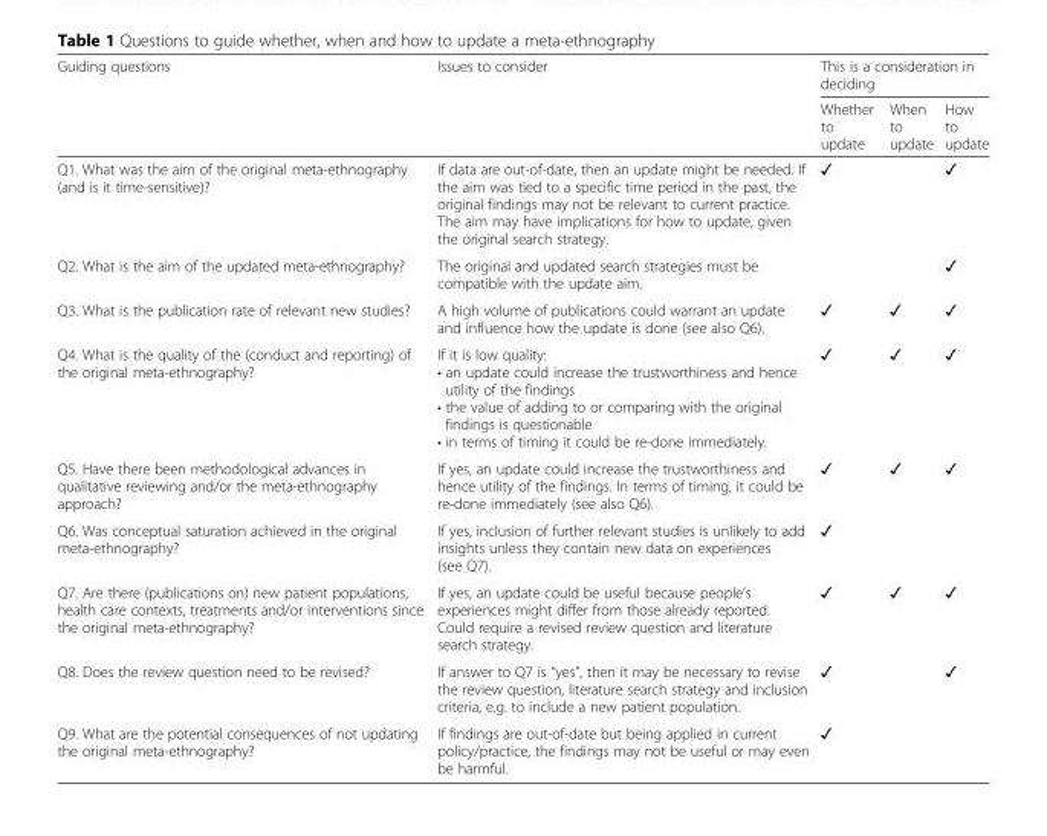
<table><thead><tr><td rowspan="2">Guiding questions</td><td rowspan="2">Issues to consider</td><td colspan="3">This is a consideration in deciding</td></tr><tr><td>Whether to update</td><td>When to update</td><td>How to update</td></tr></thead><tbody><tr><td>Q1. What was the aim of the original meta-ethnography (and is it time-sensitive)?</td><td>If data are out-of-date, then an update might be needed. If the aim was tied to a specific time period in the past, the original findings may not be relevant to current practice. The aim may have implications for how to update, given the original search strategy.</td><td>✓</td><td></td><td>✓</td></tr><tr><td>Q2. What is the aim of the updated meta-ethnography?</td><td>The original and updated search strategies must be compatible with the update aim.</td><td></td><td></td><td>✓</td></tr><tr><td>Q3. What is the publication rate of relevant new studies?</td><td>A high volume of publications could warrant an update and influence how the update is done (see also Q6).</td><td>✓</td><td>✓</td><td>✓</td></tr><tr><td>Q4. What is the quality of the (conduct and reporting) of the original meta-ethnography?</td><td>If it is low quality: • an update could increase the trustworthiness and hence utility of the findings • the value of adding to or comparing with the original findings is questionable • in terms of timing it could be re-done immediately.</td><td>✓</td><td>✓</td><td>✓</td></tr><tr><td>Q5. Have there been methodological advances in qualitative reviewing and/or the meta-ethnography approach?</td><td>If yes, an update could increase the trustworthiness and hence utility of the findings. In terms of timing, it could be re-done immediately (see also Q6).</td><td>✓</td><td>✓</td><td>✓</td></tr><tr><td>Q6. Was conceptual saturation achieved in the original meta-ethnography?</td><td>If yes, inclusion of further relevant studies is unlikely to add insights unless they contain new data on experiences (see Q7).</td><td>✓</td><td></td><td></td></tr><tr><td>Q7. Are there (publications on) new patient populations, health care contexts, treatments and/or interventions since the original meta-ethnography?</td><td>If yes, an update could be useful because people’s experiences might differ from those already reported. Could require a revised review question and literature search strategy.</td><td>✓</td><td>✓</td><td>✓</td></tr><tr><td>Q8. Does the review question need to be revised?</td><td>If answer to Q7 is “yes”, then it may be necessary to revise the review question, literature search strategy and inclusion criteria, e.g. to include a new patient population.</td><td>✓</td><td></td><td>✓</td></tr><tr><td>Q9. What are the potential consequences of not updating the original meta-ethnography?</td><td>If findings are out-of-date but being applied in current policy/practice, the findings may not be useful or may even be harmful.</td><td>✓</td><td></td><td></td></tr></tbody></table>